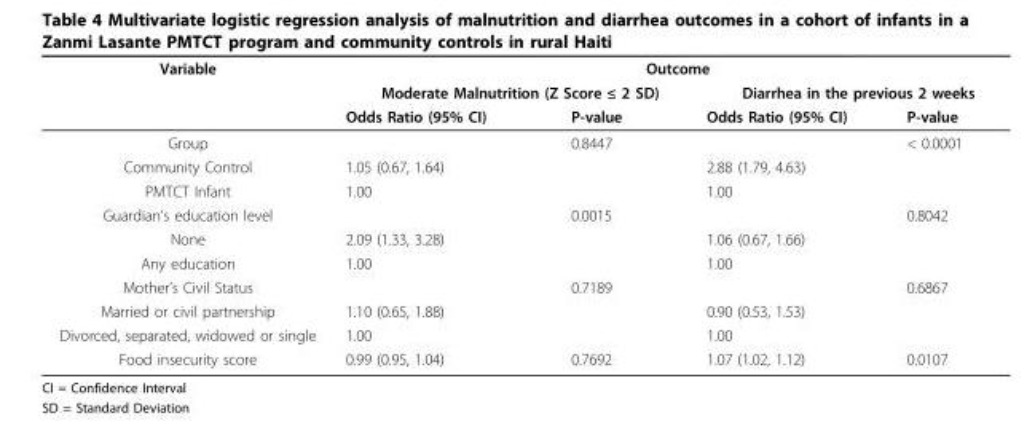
<table><thead><tr><td rowspan="3">Variable</td><td colspan="4">Outcome</td></tr><tr><td colspan="2">Moderate Malnutrition (Z Score ≤ 2 SD)</td><td colspan="2">Diarrhea in the previous 2 weeks</td></tr><tr><td>Odds Ratio (95% CI)</td><td>P-value</td><td>Odds Ratio (95% CI)</td><td>P-value</td></tr></thead><tbody><tr><td>Group</td><td></td><td>0.8447</td><td></td><td>&lt; 0.0001</td></tr><tr><td>Community Control</td><td>1.05 (0.67, 1.64)</td><td></td><td>2.88 (1.79, 4.63)</td><td></td></tr><tr><td>PMTCT Infant</td><td>1.00</td><td></td><td>1.00</td><td></td></tr><tr><td>Guardian’s education level</td><td></td><td>0.0015</td><td></td><td>0.8042</td></tr><tr><td>None</td><td>2.09 (1.33, 3.28)</td><td></td><td>1.06 (0.67, 1.66)</td><td></td></tr><tr><td>Any education</td><td>1.00</td><td></td><td>1.00</td><td></td></tr><tr><td>Mother’s Civil Status</td><td></td><td>0.7189</td><td></td><td>0.6867</td></tr><tr><td>Married or civil partnership</td><td>1.10 (0.65, 1.88)</td><td></td><td>0.90 (0.53, 1.53)</td><td></td></tr><tr><td>Divorced, separated, widowed or single</td><td>1.00</td><td></td><td>1.00</td><td></td></tr><tr><td>Food insecurity score</td><td>0.99 (0.95, 1.04)</td><td>0.7692</td><td>1.07 (1.02, 1.12)</td><td>0.0107</td></tr></tbody></table>